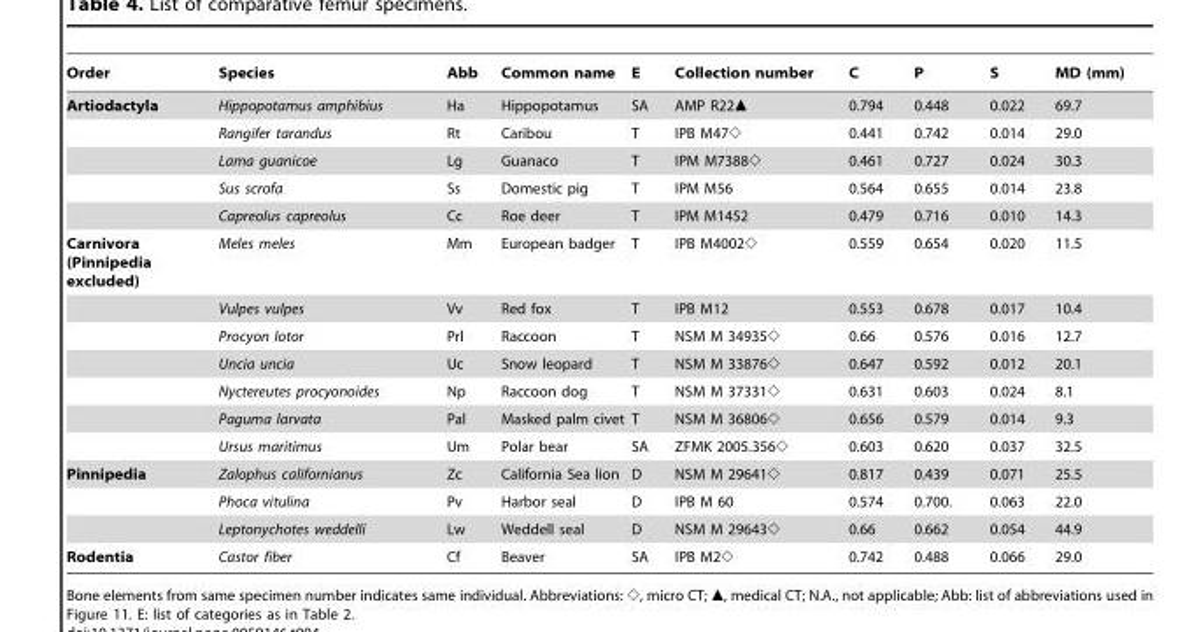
<table><thead><tr><td>Order</td><td>Species</td><td>Abb</td><td>Common name</td><td>E</td><td>Collection number</td><td>C</td><td>P</td><td>S</td><td>MD (mm)</td></tr></thead><tbody><tr><td rowspan="5">Artiodactyla</td><td>Hippopotamus amphibius</td><td>Ha</td><td>Hippopotamus</td><td>SA</td><td>AMP R22▴</td><td>0.794</td><td>0.448</td><td>0.022</td><td>69.7</td></tr><tr><td>Rangifer tarandus</td><td>Rt</td><td>Caribou</td><td>T</td><td>IPB M47◊</td><td>0.441</td><td>0.742</td><td>0.014</td><td>29.0</td></tr><tr><td>Lama guanicoe</td><td>Lg</td><td>Guanaco</td><td>T</td><td>IPM M7388◊</td><td>0.461</td><td>0.727</td><td>0.024</td><td>30.3</td></tr><tr><td>Sus scrofa</td><td>Ss</td><td>Domestic pig</td><td>T</td><td>IPM M56</td><td>0.564</td><td>0.655</td><td>0.014</td><td>23.8</td></tr><tr><td>Capreolus capreolus</td><td>Cc</td><td>Roe deer</td><td>T</td><td>IPM M1452</td><td>0.479</td><td>0.716</td><td>0.010</td><td>14.3</td></tr><tr><td rowspan="7">Carnivora (Pinnipedia excluded)</td><td>Meles meles</td><td>Mm</td><td>European badger</td><td>T</td><td>IPB M4002◊</td><td>0.559</td><td>0.654</td><td>0.020</td><td>11.5</td></tr><tr><td>Vulpes vulpes</td><td>Vv</td><td>Red fox</td><td>T</td><td>IPB M12</td><td>0.553</td><td>0.678</td><td>0.017</td><td>10.4</td></tr><tr><td>Procyon lotor</td><td>Prl</td><td>Raccoon</td><td>T</td><td>NSM M 34935◊</td><td>0.66</td><td>0.576</td><td>0.016</td><td>12.7</td></tr><tr><td>Uncia uncia</td><td>Uc</td><td>Snow leopard</td><td>T</td><td>NSM M 33876◊</td><td>0.647</td><td>0.592</td><td>0.012</td><td>20.1</td></tr><tr><td>Nyctereutes procyonoides</td><td>Np</td><td>Raccoon dog</td><td>T</td><td>NSM M 37331◊</td><td>0.631</td><td>0.603</td><td>0.024</td><td>8.1</td></tr><tr><td>Paguma larvata</td><td>Pal</td><td>Masked palm civet</td><td>T</td><td>NSM M 36806◊</td><td>0.656</td><td>0.579</td><td>0.014</td><td>9.3</td></tr><tr><td>Ursus maritimus</td><td>Um</td><td>Polar bear</td><td>SA</td><td>ZFMK 2005.356◊</td><td>0.603</td><td>0.620</td><td>0.037</td><td>32.5</td></tr><tr><td rowspan="3">Pinnipedia</td><td>Zalophus californianus</td><td>Zc</td><td>California Sea lion</td><td>D</td><td>NSM M 29641◊</td><td>0.817</td><td>0.439</td><td>0.071</td><td>25.5</td></tr><tr><td>Phoca vitulina</td><td>Pv</td><td>Harbor seal</td><td>D</td><td>IPB M 60</td><td>0.574</td><td>0.700.</td><td>0.063</td><td>22.0</td></tr><tr><td>Leptonychotes weddelli</td><td>Lw</td><td>Weddell seal</td><td>D</td><td>NSM M 29643◊</td><td>0.66</td><td>0.662</td><td>0.054</td><td>44.9</td></tr><tr><td>Rodentia</td><td>Castor fiber</td><td>Cf</td><td>Beaver</td><td>SA</td><td>IPB M2◊</td><td>0.742</td><td>0.488</td><td>0.066</td><td>29.0</td></tr></tbody></table>